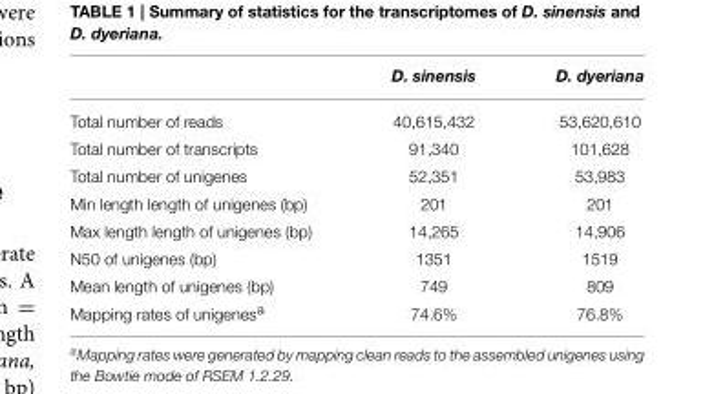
<table><thead><tr><td></td><td>D. sinensis</td><td>D. dyeriana</td></tr></thead><tbody><tr><td>Total number of reads</td><td>40,615,432</td><td>53,620,610</td></tr><tr><td>Total number of transcripts</td><td>91,340</td><td>101,628</td></tr><tr><td>Total number of unigenes</td><td>52,351</td><td>53,983</td></tr><tr><td>Min length length of unigenes (bp)</td><td>201</td><td>201</td></tr><tr><td>Max length length of unigenes (bp)</td><td>14,265</td><td>14,906</td></tr><tr><td>N50 of unigenes (bp)</td><td>1351</td><td>1519</td></tr><tr><td>Mean length of unigenes (bp)</td><td>749</td><td>809</td></tr><tr><td>Mapping rates of unigenes<sup>a</sup></td><td>74.6%</td><td>76.8%</td></tr></tbody></table>